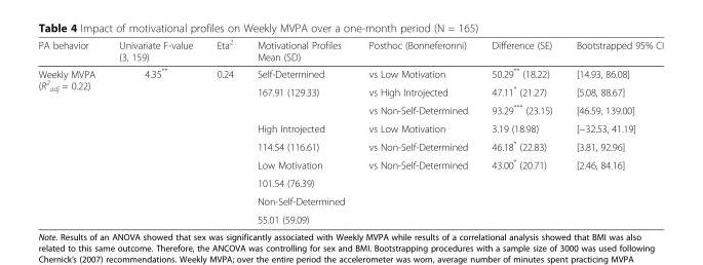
<table><thead><tr><td>PA behavior</td><td>Univariate F-value (3, 159)</td><td>Eta<sup>2</sup></td><td>Motivational Profiles Mean (SD)</td><td>Posthoc (Bonneferonni)</td><td>Difference (SE)</td><td>Bootstrapped 95% CI</td></tr></thead><tbody><tr><td rowspan="9">Weekly MVPA (R<sup>2</sup> <sub>adj</sub> = 0.22)</td><td rowspan="6">4.35**</td><td rowspan="6">0.24</td><td>Self-Determined</td><td>vs Low Motivation</td><td>50.29** (18.22)</td><td>[14.93, 86.08]</td></tr><tr><td>167.91 (129.33)</td><td>vs High Introjected</td><td>47.11* (21.27)</td><td>[5.08, 88.67]</td></tr><tr><td></td><td>vs Non-Self-Determined</td><td>93.29*** (23.15)</td><td>[46.59, 139.00]</td></tr><tr><td>High Introjected</td><td>vs Low Motivation</td><td>3.19 (18.98)</td><td>[−32.53, 41.19]</td></tr><tr><td>114.54 (116.61)</td><td>vs Non-Self-Determined</td><td>46.18* (22.83)</td><td>[3.81, 92.96]</td></tr><tr><td>Low Motivation</td><td>vs Non-Self-Determined</td><td>43.00* (20.71)</td><td>[2.46, 84.16]</td></tr><tr><td></td><td></td><td>101.54 (76.39)</td><td></td><td></td><td></td></tr><tr><td></td><td></td><td>Non-Self-Determined</td><td></td><td></td><td></td></tr><tr><td></td><td></td><td>55.01 (59.09)</td><td></td><td></td><td></td></tr></tbody></table>